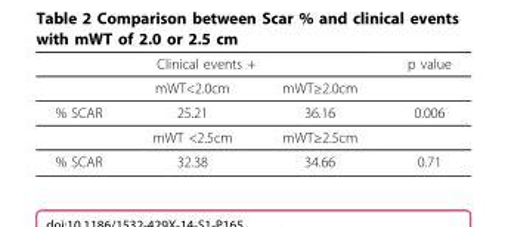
<table><thead><tr><td colspan="3">Clinical events +</td><td rowspan="2">p value</td></tr><tr><td></td><td>mWT&lt;2.0cm</td><td>mWT≥2.0cm</td></tr></thead><tbody><tr><td rowspan="2">% SCAR</td><td>25.21</td><td>36.16</td><td>0.006</td></tr><tr><td>mWT &lt;2.5cm</td><td>mWT≥2.5cm</td><td></td></tr><tr><td>% SCAR</td><td>32.38</td><td>34.66</td><td>0.71</td></tr></tbody></table>